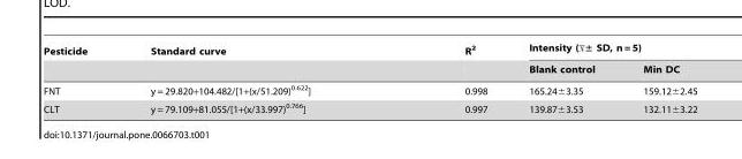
<table><thead><tr><td rowspan="2">Pesticide</td><td rowspan="2">Standard curve</td><td rowspan="2">R<sup>2</sup></td><td colspan="2">Intensity (x± SD, n = 5)</td></tr><tr><td>Blank control</td><td>Min DC</td></tr></thead><tbody><tr><td>FNT</td><td>y = 29.820+104.482/[1+(x/51.209)<sup>0.622</sup>]</td><td>0.998</td><td>165.24±3.35</td><td>159.12±2.45</td></tr><tr><td>CLT</td><td>y = 79.109+81.055/[1+(x/33.997)<sup>0.766</sup>]</td><td>0.997</td><td>139.87±3.53</td><td>132.11±3.22</td></tr></tbody></table>